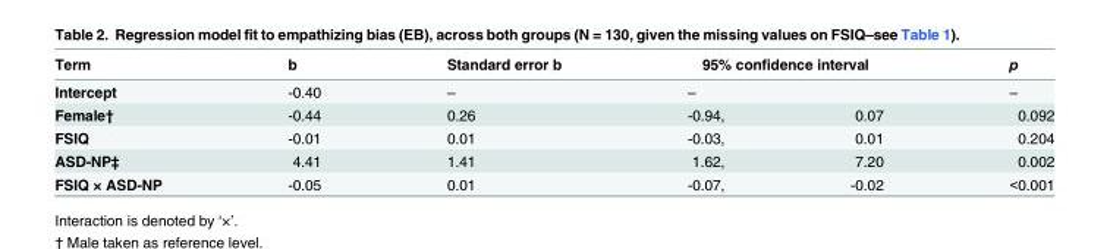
<table><thead><tr><td rowspan="2">Term Intercept</td><td rowspan="2">b -0.40</td><td rowspan="2">Standard error b –</td><td colspan="2">95% confidence interval</td><td rowspan="2">p –</td></tr><tr><td>–</td><td></td></tr></thead><tbody><tr><td>Female†</td><td>-0.44</td><td>0.26</td><td>-0.94,</td><td>0.07</td><td>0.092</td></tr><tr><td>FSIQ</td><td>-0.01</td><td>0.01</td><td>-0.03,</td><td>0.01</td><td>0.204</td></tr><tr><td>ASD-NP‡</td><td>4.41</td><td>1.41</td><td>1.62,</td><td>7.20</td><td>0.002</td></tr><tr><td>FSIQ × ASD-NP</td><td>-0.05</td><td>0.01</td><td>-0.07,</td><td>-0.02</td><td>&lt;0.001</td></tr></tbody></table>